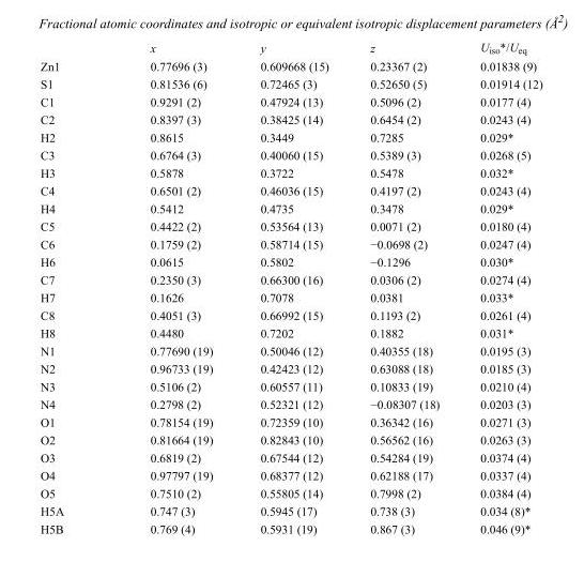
<table><thead><tr><td></td><td>x</td><td>y</td><td>z</td><td>U<sub>iso</sub>*/U<sub>eq</sub></td></tr></thead><tbody><tr><td>Zn1</td><td>0.77696 (3)</td><td>0.609668 (15)</td><td>0.23367 (2)</td><td>0.01838 (9)</td></tr><tr><td>S1</td><td>0.81536 (6)</td><td>0.72465 (3)</td><td>0.52650 (5)</td><td>0.01914 (12)</td></tr><tr><td>C1</td><td>0.9291 (2)</td><td>0.47924 (13)</td><td>0.5096 (2)</td><td>0.0177 (4)</td></tr><tr><td>C2</td><td>0.8397 (3)</td><td>0.38425 (14)</td><td>0.6454 (2)</td><td>0.0243 (4)</td></tr><tr><td>H2</td><td>0.8615</td><td>0.3449</td><td>0.7285</td><td>0.029*</td></tr><tr><td>C3</td><td>0.6764 (3)</td><td>0.40060 (15)</td><td>0.5389 (3)</td><td>0.0268 (5)</td></tr><tr><td>H3</td><td>0.5878</td><td>0.3722</td><td>0.5478</td><td>0.032*</td></tr><tr><td>C4</td><td>0.6501 (2)</td><td>0.46036 (15)</td><td>0.4197 (2)</td><td>0.0243 (4)</td></tr><tr><td>H4</td><td>0.5412</td><td>0.4735</td><td>0.3478</td><td>0.029*</td></tr><tr><td>C5</td><td>0.4422 (2)</td><td>0.53564 (13)</td><td>0.0071 (2)</td><td>0.0180 (4)</td></tr><tr><td>C6</td><td>0.1759 (2)</td><td>0.58714 (15)</td><td>−0.0698 (2)</td><td>0.0247 (4)</td></tr><tr><td>H6</td><td>0.0615</td><td>0.5802</td><td>−0.1296</td><td>0.030*</td></tr><tr><td>C7</td><td>0.2350 (3)</td><td>0.66300 (16)</td><td>0.0306 (2)</td><td>0.0274 (4)</td></tr><tr><td>H7</td><td>0.1626</td><td>0.7078</td><td>0.0381</td><td>0.033*</td></tr><tr><td>C8</td><td>0.4051 (3)</td><td>0.66992 (15)</td><td>0.1193 (2)</td><td>0.0261 (4)</td></tr><tr><td>H8</td><td>0.4480</td><td>0.7202</td><td>0.1882</td><td>0.031*</td></tr><tr><td>N1</td><td>0.77690 (19)</td><td>0.50046 (12)</td><td>0.40355 (18)</td><td>0.0195 (3)</td></tr><tr><td>N2</td><td>0.96733 (19)</td><td>0.42423 (12)</td><td>0.63088 (18)</td><td>0.0185 (3)</td></tr><tr><td>N3</td><td>0.5106 (2)</td><td>0.60557 (11)</td><td>0.10833 (19)</td><td>0.0210 (4)</td></tr><tr><td>N4</td><td>0.2798 (2)</td><td>0.52321 (12)</td><td>−0.08307 (18)</td><td>0.0203 (3)</td></tr><tr><td>O1</td><td>0.78154 (19)</td><td>0.72359 (10)</td><td>0.36342 (16)</td><td>0.0271 (3)</td></tr><tr><td>O2</td><td>0.81664 (19)</td><td>0.82843 (10)</td><td>0.56562 (16)</td><td>0.0263 (3)</td></tr><tr><td>O3</td><td>0.6819 (2)</td><td>0.67544 (12)</td><td>0.54284 (19)</td><td>0.0374 (4)</td></tr><tr><td>O4</td><td>0.97797 (19)</td><td>0.68377 (12)</td><td>0.62188 (17)</td><td>0.0337 (4)</td></tr><tr><td>O5</td><td>0.7510 (2)</td><td>0.55805 (14)</td><td>0.7998 (2)</td><td>0.0384 (4)</td></tr><tr><td>H5A</td><td>0.747 (3)</td><td>0.5945 (17)</td><td>0.738 (3)</td><td>0.034 (8)*</td></tr><tr><td>H5B</td><td>0.769 (4)</td><td>0.5931 (19)</td><td>0.867 (3)</td><td>0.046 (9)*</td></tr></tbody></table>